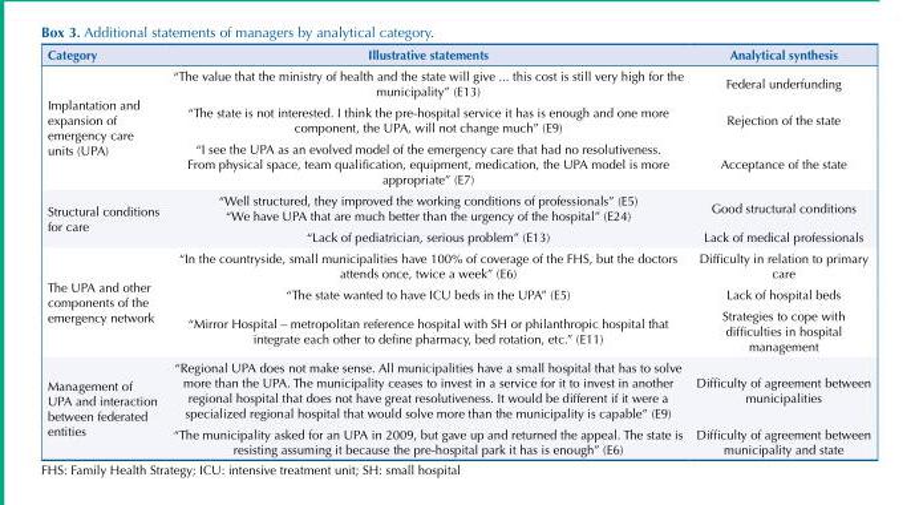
<table><thead><tr><td>Category</td><td>Illustrative statements</td><td>Analytical synthesis</td></tr></thead><tbody><tr><td rowspan="3">Implantation and expansion of emergency care units (UPA)</td><td>“The value that the ministry of health and the state will give ... this cost is still very high for the municipality” (E13)</td><td>Federal underfunding</td></tr><tr><td>“The state is not interested. I think the pre-hospital service it has is enough and one more component, the UPA, will not change much” (E9)</td><td>Rejection of the state</td></tr><tr><td>“I see the UPA as an evolved model of the emergency care that had no resolutiveness. From physical space, team qualification, equipment, medication, the UPA model is more appropriate” (E7)</td><td>Acceptance of the state</td></tr><tr><td rowspan="3">Structural conditions for care</td><td>“Well structured, they improved the working conditions of professionals” (E5)</td><td rowspan="2">Good structural conditions</td></tr><tr><td>“We have UPA that are much better than the urgency of the hospital” (E24)</td></tr><tr><td>“Lack of pediatrician, serious problem” (E13)</td><td>Lack of medical professionals</td></tr><tr><td rowspan="3">The UPA and other components of the emergency network</td><td>“In the countryside, small municipalities have 100% of coverage of the FHS, but the doctors attends once, twice a week” (E6)</td><td>Difficulty in relation to primary care</td></tr><tr><td>“The state wanted to have ICU beds in the UPA” (E5)</td><td>Lack of hospital beds</td></tr><tr><td>“Mirror Hospital – metropolitan reference hospital with SH or philanthropic hospital that integrate each other to define pharmacy, bed rotation, etc.” (E11)</td><td>Strategies to cope with difficulties in hospital management</td></tr><tr><td rowspan="2">Management of UPA and interaction between federated entities</td><td>“Regional UPA does not make sense. All municipalities have a small hospital that has to solve more than the UPA. The municipality ceases to invest in a service for it to invest in another regional hospital that does not have great resolutiveness. It would be different if it were a specialized regional hospital that would solve more than the municipality is capable” (E9)</td><td>Difficulty of agreement between municipalities</td></tr><tr><td>“The municipality asked for an UPA in 2009, but gave up and returned the appeal. The state is resisting assuming it because the pre-hospital park it has is enough” (E6)</td><td>Difficulty of agreement between municipality and state</td></tr></tbody></table>